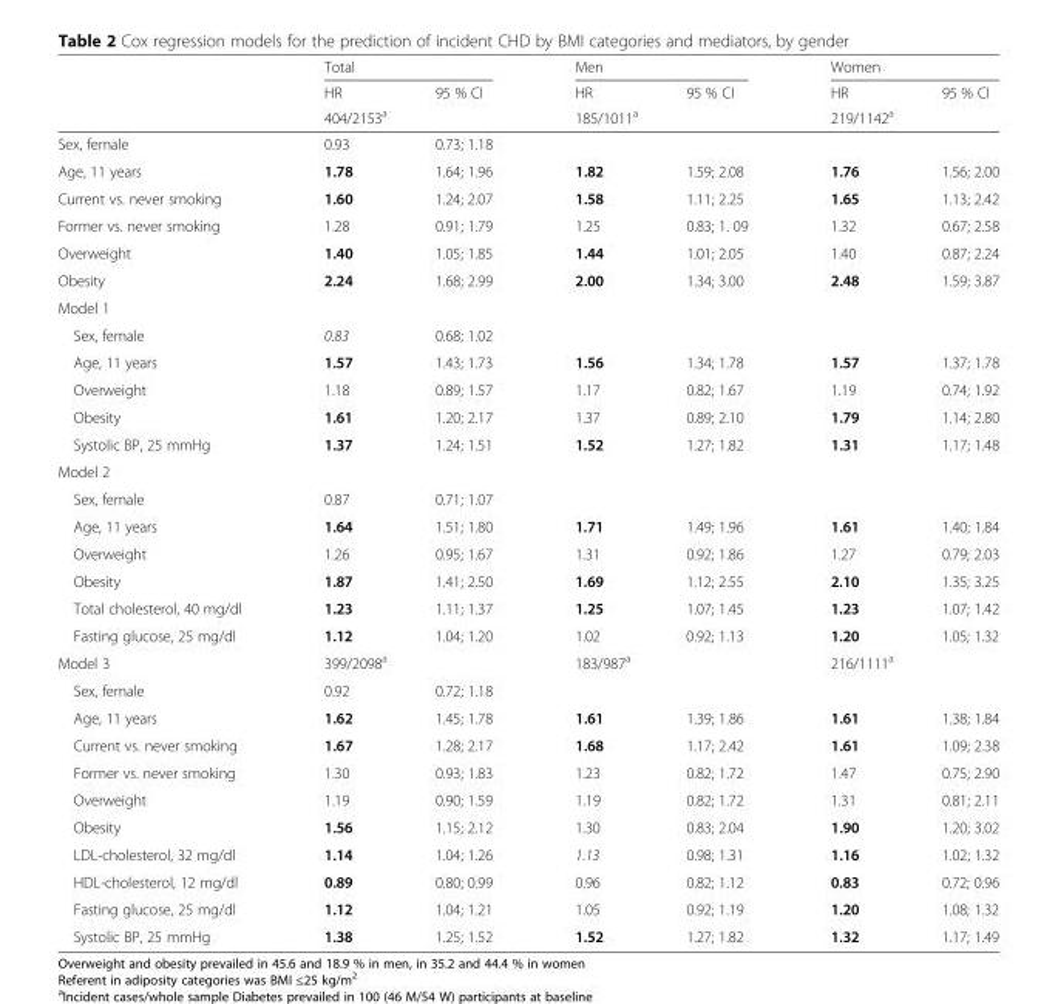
<table><thead><tr><td rowspan="3"></td><td colspan="2">Total</td><td colspan="2">Men</td><td colspan="2">Women</td></tr><tr><td>HR</td><td>95 % CI</td><td>HR</td><td>95 % CI</td><td>HR</td><td>95 % CI</td></tr><tr><td colspan="2">404/2153<sup>a</sup></td><td colspan="2">185/1011<sup>a</sup></td><td colspan="2">219/1142<sup>a</sup></td></tr></thead><tbody><tr><td>Sex, female</td><td>0.93</td><td>0.73; 1.18</td><td></td><td></td><td></td><td></td></tr><tr><td>Age, 11 years</td><td>1.78</td><td>1.64; 1.96</td><td>1.82</td><td>1.59; 2.08</td><td>1.76</td><td>1.56; 2.00</td></tr><tr><td>Current vs. never smoking</td><td>1.60</td><td>1.24; 2.07</td><td>1.58</td><td>1.11; 2.25</td><td>1.65</td><td>1.13; 2.42</td></tr><tr><td>Former vs. never smoking</td><td>1.28</td><td>0.91; 1.79</td><td>1.25</td><td>0.83; 1. 09</td><td>1.32</td><td>0.67; 2.58</td></tr><tr><td>Overweight</td><td>1.40</td><td>1.05; 1.85</td><td>1.44</td><td>1.01; 2.05</td><td>1.40</td><td>0.87; 2.24</td></tr><tr><td>Obesity</td><td>2.24</td><td>1.68; 2.99</td><td>2.00</td><td>1.34; 3.00</td><td>2.48</td><td>1.59; 3.87</td></tr><tr><td colspan="7">Model 1</td></tr><tr><td>Sex, female</td><td>0.83</td><td>0.68; 1.02</td><td></td><td></td><td></td><td></td></tr><tr><td>Age, 11 years</td><td>1.57</td><td>1.43; 1.73</td><td>1.56</td><td>1.34; 1.78</td><td>1.57</td><td>1.37; 1.78</td></tr><tr><td>Overweight</td><td>1.18</td><td>0.89; 1.57</td><td>1.17</td><td>0.82; 1.67</td><td>1.19</td><td>0.74; 1.92</td></tr><tr><td>Obesity</td><td>1.61</td><td>1.20; 2.17</td><td>1.37</td><td>0.89; 2.10</td><td>1.79</td><td>1.14; 2.80</td></tr><tr><td>Systolic BP, 25 mmHg</td><td>1.37</td><td>1.24; 1.51</td><td>1.52</td><td>1.27; 1.82</td><td>1.31</td><td>1.17; 1.48</td></tr><tr><td colspan="7">Model 2</td></tr><tr><td>Sex, female</td><td>0.87</td><td>0.71; 1.07</td><td></td><td></td><td></td><td></td></tr><tr><td>Age, 11 years</td><td>1.64</td><td>1.51; 1.80</td><td>1.71</td><td>1.49; 1.96</td><td>1.61</td><td>1.40; 1.84</td></tr><tr><td>Overweight</td><td>1.26</td><td>0.95; 1.67</td><td>1.31</td><td>0.92; 1.86</td><td>1.27</td><td>0.79; 2.03</td></tr><tr><td>Obesity</td><td>1.87</td><td>1.41; 2.50</td><td>1.69</td><td>1.12; 2.55</td><td>2.10</td><td>1.35; 3.25</td></tr><tr><td>Total cholesterol, 40 mg/dl</td><td>1.23</td><td>1.11; 1.37</td><td>1.25</td><td>1.07; 1.45</td><td>1.23</td><td>1.07; 1.42</td></tr><tr><td>Fasting glucose, 25 mg/dl</td><td>1.12</td><td>1.04; 1.20</td><td>1.02</td><td>0.92; 1.13</td><td>1.20</td><td>1.05; 1.32</td></tr><tr><td>Model 3</td><td colspan="2">399/2098<sup>a</sup></td><td colspan="2">183/987<sup>a</sup></td><td colspan="2">216/1111<sup>a</sup></td></tr><tr><td>Sex, female</td><td>0.92</td><td>0.72; 1.18</td><td></td><td></td><td></td><td></td></tr><tr><td>Age, 11 years</td><td>1.62</td><td>1.45; 1.78</td><td>1.61</td><td>1.39; 1.86</td><td>1.61</td><td>1.38; 1.84</td></tr><tr><td>Current vs. never smoking</td><td>1.67</td><td>1.28; 2.17</td><td>1.68</td><td>1.17; 2.42</td><td>1.61</td><td>1.09; 2.38</td></tr><tr><td>Former vs. never smoking</td><td>1.30</td><td>0.93; 1.83</td><td>1.23</td><td>0.82; 1.72</td><td>1.47</td><td>0.75; 2.90</td></tr><tr><td>Overweight</td><td>1.19</td><td>0.90; 1.59</td><td>1.19</td><td>0.82; 1.72</td><td>1.31</td><td>0.81; 2.11</td></tr><tr><td>Obesity</td><td>1.56</td><td>1.15; 2.12</td><td>1.30</td><td>0.83; 2.04</td><td>1.90</td><td>1.20; 3.02</td></tr><tr><td>LDL-cholesterol, 32 mg/dl</td><td>1.14</td><td>1.04; 1.26</td><td>1.13</td><td>0.98; 1.31</td><td>1.16</td><td>1.02; 1.32</td></tr><tr><td>HDL-cholesterol, 12 mg/dl</td><td>0.89</td><td>0.80; 0.99</td><td>0.96</td><td>0.82; 1.12</td><td>0.83</td><td>0.72; 0.96</td></tr><tr><td>Fasting glucose, 25 mg/dl</td><td>1.12</td><td>1.04; 1.21</td><td>1.05</td><td>0.92; 1.19</td><td>1.20</td><td>1.08; 1.32</td></tr><tr><td>Systolic BP, 25 mmHg</td><td>1.38</td><td>1.25; 1.52</td><td>1.52</td><td>1.27; 1.82</td><td>1.32</td><td>1.17; 1.49</td></tr></tbody></table>